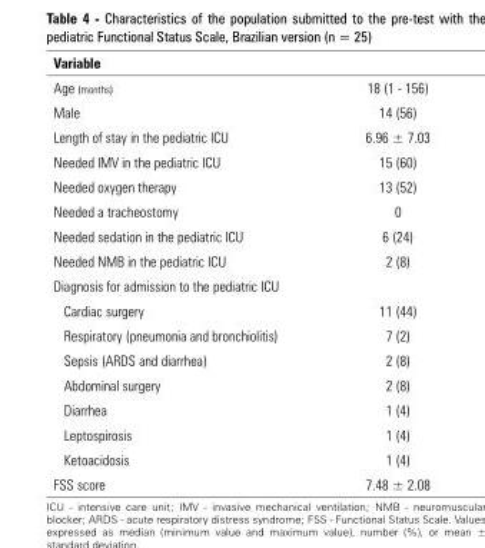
<table><thead><tr><td>Variable</td><td></td></tr></thead><tbody><tr><td>Age (months)</td><td>18 (1 - 156)</td></tr><tr><td>Male</td><td>14 (56)</td></tr><tr><td>Length of stay in the pediatric ICU</td><td>6.96 ± 7.03</td></tr><tr><td>Needed IMV in the pediatric ICU</td><td>15 (60)</td></tr><tr><td>Needed oxygen therapy</td><td>13 (52)</td></tr><tr><td>Needed a tracheostomy</td><td>0</td></tr><tr><td>Needed sedation in the pediatric ICU</td><td>6 (24)</td></tr><tr><td>Needed NMB in the pediatric ICU</td><td>2 (8)</td></tr><tr><td colspan="2">Diagnosis for admission to the pediatric ICU</td></tr><tr><td>Cardiac surgery</td><td>11 (44)</td></tr><tr><td>Respiratory (pneumonia and bronchiolitis)</td><td>7 (2)</td></tr><tr><td>Sepsis (ARDS and diarrhea)</td><td>2 (8)</td></tr><tr><td>Abdominal surgery</td><td>2 (8)</td></tr><tr><td>Diarrhea</td><td>1 (4)</td></tr><tr><td>Leptospirosis</td><td>1 (4)</td></tr><tr><td>Ketoacidosis</td><td>1 (4)</td></tr><tr><td>FSS score</td><td>7.48 ± 2.08</td></tr></tbody></table>